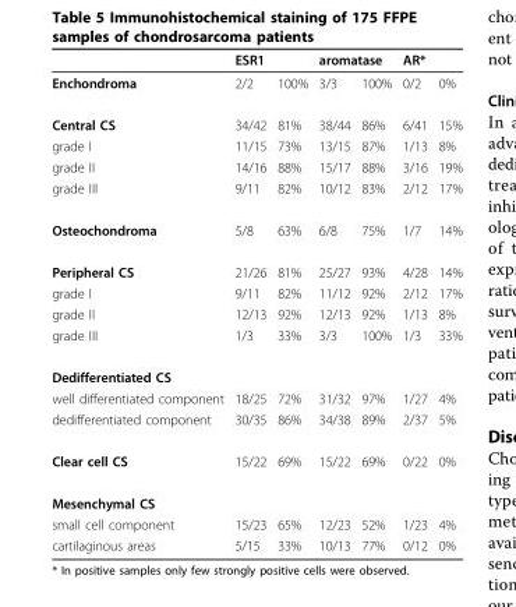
<table><thead><tr><td rowspan="2">Enchondroma</td><td colspan="2">ESR1</td><td colspan="2">aromatase</td><td colspan="2">AR*</td></tr><tr><td>2/2</td><td>100%</td><td>3/3</td><td>100%</td><td>0/2</td><td>0%</td></tr></thead><tbody><tr><td>Central CS</td><td>34/42</td><td>81%</td><td>38/44</td><td>86%</td><td>6/41</td><td>15%</td></tr><tr><td>grade I</td><td>11/15</td><td>73%</td><td>13/15</td><td>87%</td><td>1/13</td><td>8%</td></tr><tr><td>grade II</td><td>14/16</td><td>88%</td><td>15/17</td><td>88%</td><td>3/16</td><td>19%</td></tr><tr><td>grade III</td><td>9/11</td><td>82%</td><td>10/12</td><td>83%</td><td>2/12</td><td>17%</td></tr><tr><td>Osteochondroma</td><td>5/8</td><td>63%</td><td>6/8</td><td>75%</td><td>1/7</td><td>14%</td></tr><tr><td>Peripheral CS</td><td>21/26</td><td>81%</td><td>25/27</td><td>93%</td><td>4/28</td><td>14%</td></tr><tr><td>grade I</td><td>9/11</td><td>82%</td><td>11/12</td><td>92%</td><td>2/12</td><td>17%</td></tr><tr><td>grade II</td><td>12/13</td><td>92%</td><td>12/13</td><td>92%</td><td>1/13</td><td>8%</td></tr><tr><td>grade III</td><td>1/3</td><td>33%</td><td>3/3</td><td>100%</td><td>1/3</td><td>33%</td></tr><tr><td colspan="7">Dedifferentiated CS</td></tr><tr><td>well differentiated component</td><td>18/25</td><td>72%</td><td>31/32</td><td>97%</td><td>1/27</td><td>4%</td></tr><tr><td>dedifferentiated component</td><td>30/35</td><td>86%</td><td>34/38</td><td>89%</td><td>2/37</td><td>5%</td></tr><tr><td>Clear cell CS</td><td>15/22</td><td>69%</td><td>15/22</td><td>69%</td><td>0/22</td><td>0%</td></tr><tr><td colspan="7">Mesenchymal CS</td></tr><tr><td>small cell component</td><td>15/23</td><td>65%</td><td>12/23</td><td>52%</td><td>1/23</td><td>4%</td></tr><tr><td>cartilaginous areas</td><td>5/15</td><td>33%</td><td>10/13</td><td>77%</td><td>0/12</td><td>0%</td></tr></tbody></table>